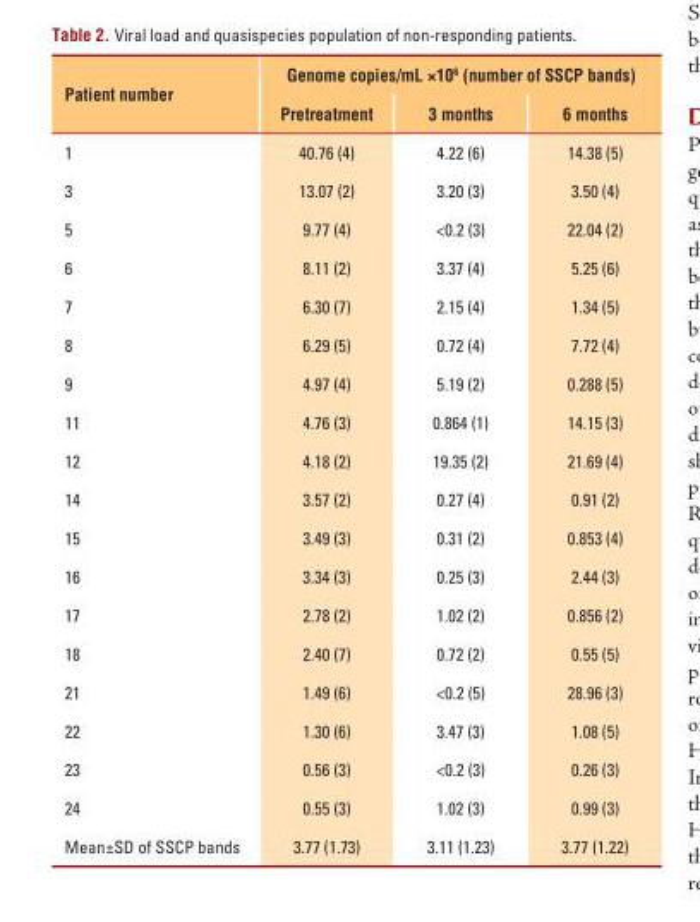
<table><thead><tr><td rowspan="2">Patient number</td><td colspan="3">Genome copies/mL ×10<sup>6</sup> (number of SSCP bands)</td></tr><tr><td>Pretreatment</td><td>3 months</td><td>6 months</td></tr></thead><tbody><tr><td>1</td><td>40.76 (4)</td><td>4.22 (6)</td><td>14.38 (5)</td></tr><tr><td>3</td><td>13.07 (2)</td><td>3.20 (3)</td><td>3.50 (4)</td></tr><tr><td>5</td><td>9.77 (4)</td><td>&lt;0.2 (3)</td><td>22.04 (2)</td></tr><tr><td>6</td><td>8.11 (2)</td><td>3.37 (4)</td><td>5.25 (6)</td></tr><tr><td>7</td><td>6.30 (7)</td><td>2.15 (4)</td><td>1.34 (5)</td></tr><tr><td>8</td><td>6.29 (5)</td><td>0.72 (4)</td><td>7.72 (4)</td></tr><tr><td>9</td><td>4.97 (4)</td><td>5.19 (2)</td><td>0.288 (5)</td></tr><tr><td>11</td><td>4.76 (3)</td><td>0.864 (1)</td><td>14.15 (3)</td></tr><tr><td>12</td><td>4.18 (2)</td><td>19.35 (2)</td><td>21.69 (4)</td></tr><tr><td>14</td><td>3.57 (2)</td><td>0.27 (4)</td><td>0.91 (2)</td></tr><tr><td>15</td><td>3.49 (3)</td><td>0.31 (2)</td><td>0.853 (4)</td></tr><tr><td>16</td><td>3.34 (3)</td><td>0.25 (3)</td><td>2.44 (3)</td></tr><tr><td>17</td><td>2.78 (2)</td><td>1.02 (2)</td><td>0.856 (2)</td></tr><tr><td>18</td><td>2.40 (7)</td><td>0.72 (2)</td><td>0.55 (5)</td></tr><tr><td>21</td><td>1.49 (6)</td><td>&lt;0.2 (5)</td><td>28.96 (3)</td></tr><tr><td>22</td><td>1.30 (6)</td><td>3.47 (3)</td><td>1.08 (5)</td></tr><tr><td>23</td><td>0.56 (3)</td><td>&lt;0.2 (3)</td><td>0.26 (3)</td></tr><tr><td>24</td><td>0.55 (3)</td><td>1.02 (3)</td><td>0.99 (3)</td></tr><tr><td>Mean±SD of SSCP bands</td><td>3.77 (1.73)</td><td>3.11 (1.23)</td><td>3.77 (1.22)</td></tr></tbody></table>